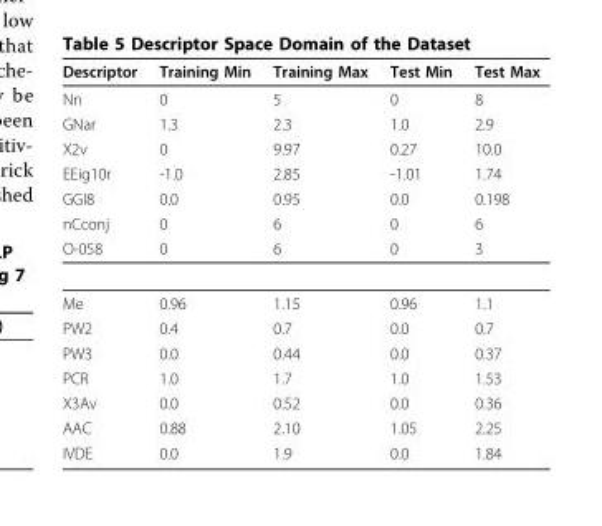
<table><thead><tr><td>Descriptor</td><td>Training Min</td><td>Training Max</td><td>Test Min</td><td>Test Max</td></tr></thead><tbody><tr><td>Nn</td><td>0</td><td>5</td><td>0</td><td>8</td></tr><tr><td>GNar</td><td>1.3</td><td>2.3</td><td>1.0</td><td>2.9</td></tr><tr><td>X2v</td><td>0</td><td>9.97</td><td>0.27</td><td>10.0</td></tr><tr><td>EEig10r</td><td>-1.0</td><td>2.85</td><td>-1.01</td><td>1.74</td></tr><tr><td>GGI8</td><td>0.0</td><td>0.95</td><td>0.0</td><td>0.198</td></tr><tr><td>nCconj</td><td>0</td><td>6</td><td>0</td><td>6</td></tr><tr><td>O-058</td><td>0</td><td>6</td><td>0</td><td>3</td></tr><tr><td>Me</td><td>0.96</td><td>1.15</td><td>0.96</td><td>1.1</td></tr><tr><td>PW2</td><td>0.4</td><td>0.7</td><td>0.0</td><td>0.7</td></tr><tr><td>PW3</td><td>0.0</td><td>0.44</td><td>0.0</td><td>0.37</td></tr><tr><td>PCR</td><td>1.0</td><td>1.7</td><td>1.0</td><td>1.53</td></tr><tr><td>X3Av</td><td>0.0</td><td>0.52</td><td>0.0</td><td>0.36</td></tr><tr><td>AAC</td><td>0.88</td><td>2.10</td><td>1.05</td><td>2.25</td></tr><tr><td>IVDE</td><td>0.0</td><td>1.9</td><td>0.0</td><td>1.84</td></tr></tbody></table>